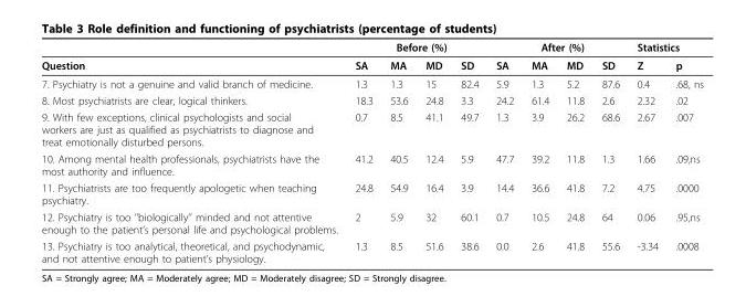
<table><thead><tr><td rowspan="2">Question</td><td colspan="4">Before (%)</td><td colspan="4">After (%)</td><td colspan="2">Statistics</td></tr><tr><td>SA</td><td>MA</td><td>MD</td><td>SD</td><td>SA</td><td>MA</td><td>MD</td><td>SD</td><td>Z</td><td>p</td></tr></thead><tbody><tr><td>7. Psychiatry is not a genuine and valid branch of medicine.</td><td>1.3</td><td>1.3</td><td>15</td><td>82.4</td><td>5.9</td><td>1.3</td><td>5.2</td><td>87.6</td><td>0.4</td><td>.68, ns</td></tr><tr><td>8. Most psychiatrists are clear, logical thinkers.</td><td>18.3</td><td>53.6</td><td>24.8</td><td>3.3</td><td>24.2</td><td>61.4</td><td>11.8</td><td>2.6</td><td>2.32</td><td>.02</td></tr><tr><td>9. With few exceptions, clinical psychologists and social workers are just as qualified as psychiatrists to diagnose and treat emotionally disturbed persons.</td><td>0.7</td><td>8.5</td><td>41.1</td><td>49.7</td><td>1.3</td><td>3.9</td><td>26.2</td><td>68.6</td><td>2.67</td><td>.007</td></tr><tr><td>10. Among mental health professionals, psychiatrists have the most authority and influence.</td><td>41.2</td><td>40.5</td><td>12.4</td><td>5.9</td><td>47.7</td><td>39.2</td><td>11.8</td><td>1.3</td><td>1.66</td><td>.09,ns</td></tr><tr><td>11. Psychiatrists are too frequently apologetic when teaching psychiatry.</td><td>24.8</td><td>54.9</td><td>16.4</td><td>3.9</td><td>14.4</td><td>36.6</td><td>41.8</td><td>7.2</td><td>4.75</td><td>.0000</td></tr><tr><td>12. Psychiatry is too ‘’biologically’’ minded and not attentive enough to the patient’s personal life and psychological problems.</td><td>2</td><td>5.9</td><td>32</td><td>60.1</td><td>0.7</td><td>10.5</td><td>24.8</td><td>64</td><td>0.06</td><td>.95,ns</td></tr><tr><td>13. Psychiatry is too analytical, theoretical, and psychodynamic, and not attentive enough to patient’s physiology.</td><td>1.3</td><td>8.5</td><td>51.6</td><td>38.6</td><td>0.0</td><td>2.6</td><td>41.8</td><td>55.6</td><td>-3.34</td><td>.0008</td></tr></tbody></table>